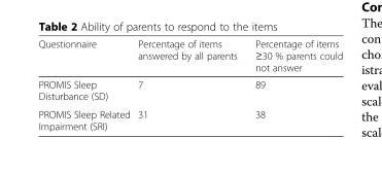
<table><thead><tr><td>Questionnaire</td><td>Percentage of items answered by all parents</td><td>Percentage of items ≥30 % parents could not answer</td></tr></thead><tbody><tr><td>PROMIS Sleep Disturbance (SD)</td><td>7</td><td>89</td></tr><tr><td>PROMIS Sleep Related Impairment (SRI)</td><td>31</td><td>38</td></tr></tbody></table>